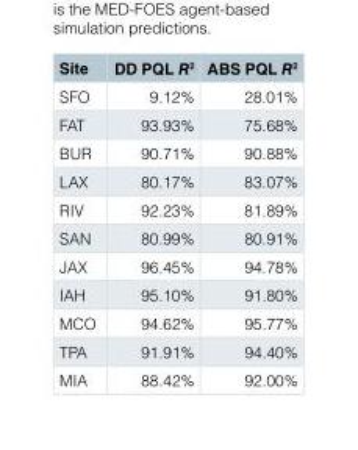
<table><thead><tr><td>Site</td><td>DD PQL R<sup>2</sup></td><td>ABS PQL R<sup>2</sup></td></tr></thead><tbody><tr><td>SFO</td><td>9.12%</td><td>28.01%</td></tr><tr><td>FAT</td><td>93.93%</td><td>75.68%</td></tr><tr><td>BUR</td><td>90.71%</td><td>90.88%</td></tr><tr><td>LAX</td><td>80.17%</td><td>83.07%</td></tr><tr><td>RIV</td><td>92.23%</td><td>81.89%</td></tr><tr><td>SAN</td><td>80.99%</td><td>80.91%</td></tr><tr><td>JAX</td><td>96.45%</td><td>94.78%</td></tr><tr><td>IAH</td><td>95.10%</td><td>91.80%</td></tr><tr><td>MCO</td><td>94.62%</td><td>95.77%</td></tr><tr><td>TPA</td><td>91.91%</td><td>94.40%</td></tr><tr><td>MIA</td><td>88.42%</td><td>92.00%</td></tr></tbody></table>